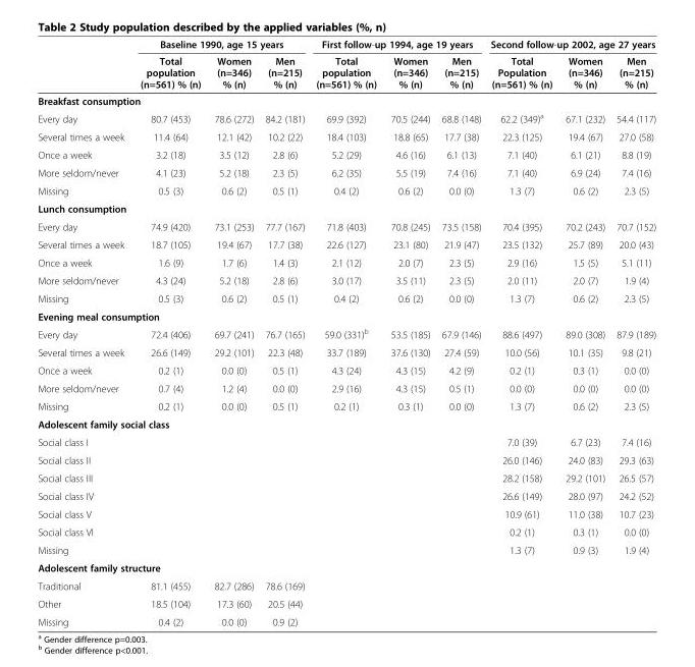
<table><thead><tr><td rowspan="2"></td><td colspan="3">Baseline 1990, age 15 years</td><td colspan="3">First follow-up 1994, age 19 years</td><td colspan="3">Second follow-up 2002, age 27 years</td></tr><tr><td>Total population (n=561) % (n)</td><td>Women (n=346) % (n)</td><td>Men (n=215) % (n)</td><td>Total population (n=561) % (n)</td><td>Women (n=346) % (n)</td><td>Men (n=215) % (n)</td><td>Total Population (n=561) % (n)</td><td>Women (n=346) % (n)</td><td>Men (n=215) % (n)</td></tr></thead><tbody><tr><td colspan="10">Breakfast consumption</td></tr><tr><td>Every day</td><td>80.7 (453)</td><td>78.6 (272)</td><td>84.2 (181)</td><td>69.9 (392)</td><td>70.5 (244)</td><td>68.8 (148)</td><td>62.2 (349)<sup>a</sup></td><td>67.1 (232)</td><td>54.4 (117)</td></tr><tr><td>Several times a week</td><td>11.4 (64)</td><td>12.1 (42)</td><td>10.2 (22)</td><td>18.4 (103)</td><td>18.8 (65)</td><td>17.7 (38)</td><td>22.3 (125)</td><td>19.4 (67)</td><td>27.0 (58)</td></tr><tr><td>Once a week</td><td>3.2 (18)</td><td>3.5 (12)</td><td>2.8 (6)</td><td>5.2 (29)</td><td>4.6 (16)</td><td>6.1 (13)</td><td>7.1 (40)</td><td>6.1 (21)</td><td>8.8 (19)</td></tr><tr><td>More seldom/never</td><td>4.1 (23)</td><td>5.2 (18)</td><td>2.3 (5)</td><td>6.2 (35)</td><td>5.5 (19)</td><td>7.4 (16)</td><td>7.1 (40)</td><td>6.9 (24)</td><td>7.4 (16)</td></tr><tr><td>Missing</td><td>0.5 (3)</td><td>0.6 (2)</td><td>0.5 (1)</td><td>0.4 (2)</td><td>0.6 (2)</td><td>0.0 (0)</td><td>1.3 (7)</td><td>0.6 (2)</td><td>2.3 (5)</td></tr><tr><td colspan="10">Lunch consumption</td></tr><tr><td>Every day</td><td>74.9 (420)</td><td>73.1 (253)</td><td>77.7 (167)</td><td>71.8 (403)</td><td>70.8 (245)</td><td>73.5 (158)</td><td>70.4 (395)</td><td>70.2 (243)</td><td>70.7 (152)</td></tr><tr><td>Several times a week</td><td>18.7 (105)</td><td>19.4 (67)</td><td>17.7 (38)</td><td>22.6 (127)</td><td>23.1 (80)</td><td>21.9 (47)</td><td>23.5 (132)</td><td>25.7 (89)</td><td>20.0 (43)</td></tr><tr><td>Once a week</td><td>1.6 (9)</td><td>1.7 (6)</td><td>1.4 (3)</td><td>2.1 (12)</td><td>2.0 (7)</td><td>2.3 (5)</td><td>2.9 (16)</td><td>1.5 (5)</td><td>5.1 (11)</td></tr><tr><td>More seldom/never</td><td>4.3 (24)</td><td>5.2 (18)</td><td>2.8 (6)</td><td>3.0 (17)</td><td>3.5 (11)</td><td>2.3 (5)</td><td>2.0 (11)</td><td>2.0 (7)</td><td>1.9 (4)</td></tr><tr><td>Missing</td><td>0.5 (3)</td><td>0.6 (2)</td><td>0.5 (1)</td><td>0.4 (2)</td><td>0.6 (2)</td><td>0.0 (0)</td><td>1.3 (7)</td><td>0.6 (2)</td><td>2.3 (5)</td></tr><tr><td colspan="10">Evening meal consumption</td></tr><tr><td>Every day</td><td>72.4 (406)</td><td>69.7 (241)</td><td>76.7 (165)</td><td>59.0 (331)<sup>b</sup></td><td>53.5 (185)</td><td>67.9 (146)</td><td>88.6 (497)</td><td>89.0 (308)</td><td>87.9 (189)</td></tr><tr><td>Several times a week</td><td>26.6 (149)</td><td>29.2 (101)</td><td>22.3 (48)</td><td>33.7 (189)</td><td>37.6 (130)</td><td>27.4 (59)</td><td>10.0 (56)</td><td>10.1 (35)</td><td>9.8 (21)</td></tr><tr><td>Once a week</td><td>0.2 (1)</td><td>0.0 (0)</td><td>0.5 (1)</td><td>4.3 (24)</td><td>4.3 (15)</td><td>4.2 (9)</td><td>0.2 (1)</td><td>0.3 (1)</td><td>0.0 (0)</td></tr><tr><td>More seldom/never</td><td>0.7 (4)</td><td>1.2 (4)</td><td>0.0 (0)</td><td>2.9 (16)</td><td>4.3 (15)</td><td>0.5 (1)</td><td>0.0 (0)</td><td>0.0 (0)</td><td>0.0 (0)</td></tr><tr><td>Missing</td><td>0.2 (1)</td><td>0.0 (0)</td><td>0.5 (1)</td><td>0.2 (1)</td><td>0.3 (1)</td><td>0.0 (0)</td><td>1.3 (7)</td><td>0.6 (2)</td><td>2.3 (5)</td></tr><tr><td colspan="10">Adolescent family social class</td></tr><tr><td>Social class I</td><td></td><td></td><td></td><td></td><td></td><td></td><td>7.0 (39)</td><td>6.7 (23)</td><td>7.4 (16)</td></tr><tr><td>Social class II</td><td></td><td></td><td></td><td></td><td></td><td></td><td>26.0 (146)</td><td>24.0 (83)</td><td>29.3 (63)</td></tr><tr><td>Social class III</td><td></td><td></td><td></td><td></td><td></td><td></td><td>28.2 (158)</td><td>29.2 (101)</td><td>26.5 (57)</td></tr><tr><td>Social class IV</td><td></td><td></td><td></td><td></td><td></td><td></td><td>26.6 (149)</td><td>28.0 (97)</td><td>24.2 (52)</td></tr><tr><td>Social class V</td><td></td><td></td><td></td><td></td><td></td><td></td><td>10.9 (61)</td><td>11.0 (38)</td><td>10.7 (23)</td></tr><tr><td>Social class VI</td><td></td><td></td><td></td><td></td><td></td><td></td><td>0.2 (1)</td><td>0.3 (1)</td><td>0.0 (0)</td></tr><tr><td>Missing</td><td></td><td></td><td></td><td></td><td></td><td></td><td>1.3 (7)</td><td>0.9 (3)</td><td>1.9 (4)</td></tr><tr><td colspan="10">Adolescent family structure</td></tr><tr><td>Traditional</td><td>81.1 (455)</td><td>82.7 (286)</td><td>78.6 (169)</td><td></td><td></td><td></td><td></td><td></td><td></td></tr><tr><td>Other</td><td>18.5 (104)</td><td>17.3 (60)</td><td>20.5 (44)</td><td></td><td></td><td></td><td></td><td></td><td></td></tr><tr><td>Missing</td><td>0.4 (2)</td><td>0.0 (0)</td><td>0.9 (2)</td><td></td><td></td><td></td><td></td><td></td><td></td></tr></tbody></table>